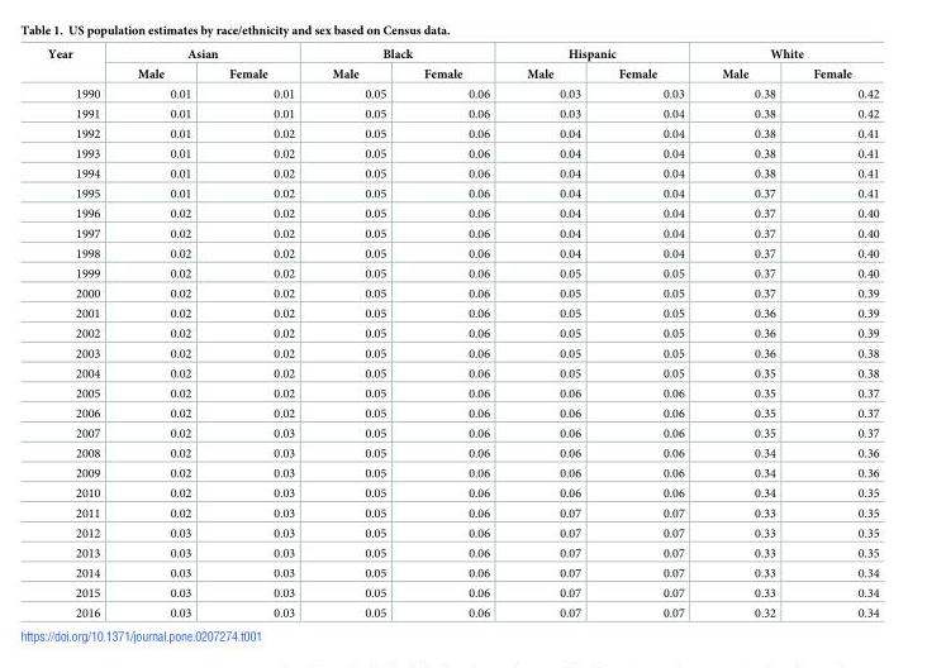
<table><thead><tr><td rowspan="2">Year</td><td colspan="2">Asian</td><td colspan="2">Black</td><td colspan="2">Hispanic</td><td colspan="2">White</td></tr><tr><td>Male</td><td>Female</td><td>Male</td><td>Female</td><td>Male</td><td>Female</td><td>Male</td><td>Female</td></tr></thead><tbody><tr><td>1990</td><td>0.01</td><td>0.01</td><td>0.05</td><td>0.06</td><td>0.03</td><td>0.03</td><td>0.38</td><td>0.42</td></tr><tr><td>1991</td><td>0.01</td><td>0.01</td><td>0.05</td><td>0.06</td><td>0.03</td><td>0.04</td><td>0.38</td><td>0.42</td></tr><tr><td>1992</td><td>0.01</td><td>0.02</td><td>0.05</td><td>0.06</td><td>0.04</td><td>0.04</td><td>0.38</td><td>0.41</td></tr><tr><td>1993</td><td>0.01</td><td>0.02</td><td>0.05</td><td>0.06</td><td>0.04</td><td>0.04</td><td>0.38</td><td>0.41</td></tr><tr><td>1994</td><td>0.01</td><td>0.02</td><td>0.05</td><td>0.06</td><td>0.04</td><td>0.04</td><td>0.38</td><td>0.41</td></tr><tr><td>1995</td><td>0.01</td><td>0.02</td><td>0.05</td><td>0.06</td><td>0.04</td><td>0.04</td><td>0.37</td><td>0.41</td></tr><tr><td>1996</td><td>0.02</td><td>0.02</td><td>0.05</td><td>0.06</td><td>0.04</td><td>0.04</td><td>0.37</td><td>0.40</td></tr><tr><td>1997</td><td>0.02</td><td>0.02</td><td>0.05</td><td>0.06</td><td>0.04</td><td>0.04</td><td>0.37</td><td>0.40</td></tr><tr><td>1998</td><td>0.02</td><td>0.02</td><td>0.05</td><td>0.06</td><td>0.04</td><td>0.04</td><td>0.37</td><td>0.40</td></tr><tr><td>1999</td><td>0.02</td><td>0.02</td><td>0.05</td><td>0.06</td><td>0.05</td><td>0.05</td><td>0.37</td><td>0.40</td></tr><tr><td>2000</td><td>0.02</td><td>0.02</td><td>0.05</td><td>0.06</td><td>0.05</td><td>0.05</td><td>0.37</td><td>0.39</td></tr><tr><td>2001</td><td>0.02</td><td>0.02</td><td>0.05</td><td>0.06</td><td>0.05</td><td>0.05</td><td>0.36</td><td>0.39</td></tr><tr><td>2002</td><td>0.02</td><td>0.02</td><td>0.05</td><td>0.06</td><td>0.05</td><td>0.05</td><td>0.36</td><td>0.39</td></tr><tr><td>2003</td><td>0.02</td><td>0.02</td><td>0.05</td><td>0.06</td><td>0.05</td><td>0.05</td><td>0.36</td><td>0.38</td></tr><tr><td>2004</td><td>0.02</td><td>0.02</td><td>0.05</td><td>0.06</td><td>0.05</td><td>0.05</td><td>0.35</td><td>0.38</td></tr><tr><td>2005</td><td>0.02</td><td>0.02</td><td>0.05</td><td>0.06</td><td>0.06</td><td>0.06</td><td>0.35</td><td>0.37</td></tr><tr><td>2006</td><td>0.02</td><td>0.02</td><td>0.05</td><td>0.06</td><td>0.06</td><td>0.06</td><td>0.35</td><td>0.37</td></tr><tr><td>2007</td><td>0.02</td><td>0.03</td><td>0.05</td><td>0.06</td><td>0.06</td><td>0.06</td><td>0.35</td><td>0.37</td></tr><tr><td>2008</td><td>0.02</td><td>0.03</td><td>0.05</td><td>0.06</td><td>0.06</td><td>0.06</td><td>0.34</td><td>0.36</td></tr><tr><td>2009</td><td>0.02</td><td>0.03</td><td>0.05</td><td>0.06</td><td>0.06</td><td>0.06</td><td>0.34</td><td>0.36</td></tr><tr><td>2010</td><td>0.02</td><td>0.03</td><td>0.05</td><td>0.06</td><td>0.06</td><td>0.06</td><td>0.34</td><td>0.35</td></tr><tr><td>2011</td><td>0.02</td><td>0.03</td><td>0.05</td><td>0.06</td><td>0.07</td><td>0.07</td><td>0.33</td><td>0.35</td></tr><tr><td>2012</td><td>0.03</td><td>0.03</td><td>0.05</td><td>0.06</td><td>0.07</td><td>0.07</td><td>0.33</td><td>0.35</td></tr><tr><td>2013</td><td>0.03</td><td>0.03</td><td>0.05</td><td>0.06</td><td>0.07</td><td>0.07</td><td>0.33</td><td>0.35</td></tr><tr><td>2014</td><td>0.03</td><td>0.03</td><td>0.05</td><td>0.06</td><td>0.07</td><td>0.07</td><td>0.33</td><td>0.34</td></tr><tr><td>2015</td><td>0.03</td><td>0.03</td><td>0.05</td><td>0.06</td><td>0.07</td><td>0.07</td><td>0.33</td><td>0.34</td></tr><tr><td>2016</td><td>0.03</td><td>0.03</td><td>0.05</td><td>0.06</td><td>0.07</td><td>0.07</td><td>0.32</td><td>0.34</td></tr></tbody></table>